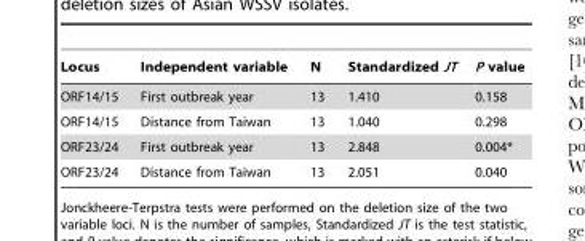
<table><thead><tr><td>Locus</td><td>Independent variable</td><td>N</td><td>Standardized JT</td><td>P value</td></tr></thead><tbody><tr><td>ORF14/15</td><td>First outbreak year</td><td>13</td><td>1.410</td><td>0.158</td></tr><tr><td>ORF14/15</td><td>Distance from Taiwan</td><td>13</td><td>1.040</td><td>0.298</td></tr><tr><td>ORF23/24</td><td>First outbreak year</td><td>13</td><td>2.848</td><td>0.004*</td></tr><tr><td>ORF23/24</td><td>Distance from Taiwan</td><td>13</td><td>2.051</td><td>0.040</td></tr></tbody></table>